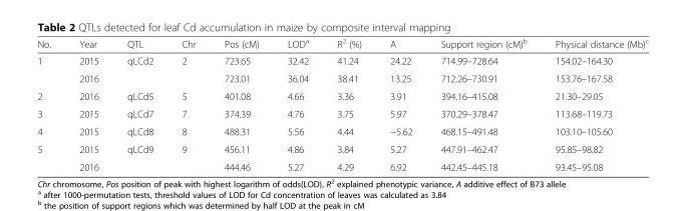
<table><thead><tr><td>No.</td><td>Year</td><td>QTL</td><td>Chr</td><td>Pos (cM)</td><td>LOD<sup>a</sup></td><td>R<sup>2</sup> (%)</td><td>A</td><td>Support region (cM)<sup>b</sup></td><td>Physical distance (Mb)<sup>c</sup></td></tr></thead><tbody><tr><td rowspan="2">1</td><td>2015</td><td rowspan="2">qLCd2</td><td rowspan="2">2</td><td>723.65</td><td>32.42</td><td>41.24</td><td>24.22</td><td>714.99–728.64</td><td>154.02–164.30</td></tr><tr><td>2016</td><td>723.01</td><td>36.04</td><td>38.41</td><td>13.25</td><td>712.26–730.91</td><td>153.76–167.58</td></tr><tr><td>2</td><td>2016</td><td>qLCd5</td><td>5</td><td>401.08</td><td>4.66</td><td>3.36</td><td>3.91</td><td>394.16–415.08</td><td>21.30–29.05</td></tr><tr><td>3</td><td>2015</td><td>qLCd7</td><td>7</td><td>374.39</td><td>4.76</td><td>3.75</td><td>5.97</td><td>370.29–378.47</td><td>113.68–119.73</td></tr><tr><td>4</td><td>2015</td><td>qLCd8</td><td>8</td><td>488.31</td><td>5.56</td><td>4.44</td><td>−5.62</td><td>468.15–491.48</td><td>103.10–105.60</td></tr><tr><td rowspan="2">5</td><td>2015</td><td rowspan="2">qLCd9</td><td rowspan="2">9</td><td>456.11</td><td>4.86</td><td>3.84</td><td>5.27</td><td>447.91–462.47</td><td>95.85–98.82</td></tr><tr><td>2016</td><td>444.46</td><td>5.27</td><td>4.29</td><td>6.92</td><td>442.45–445.18</td><td>93.45–95.08</td></tr></tbody></table>